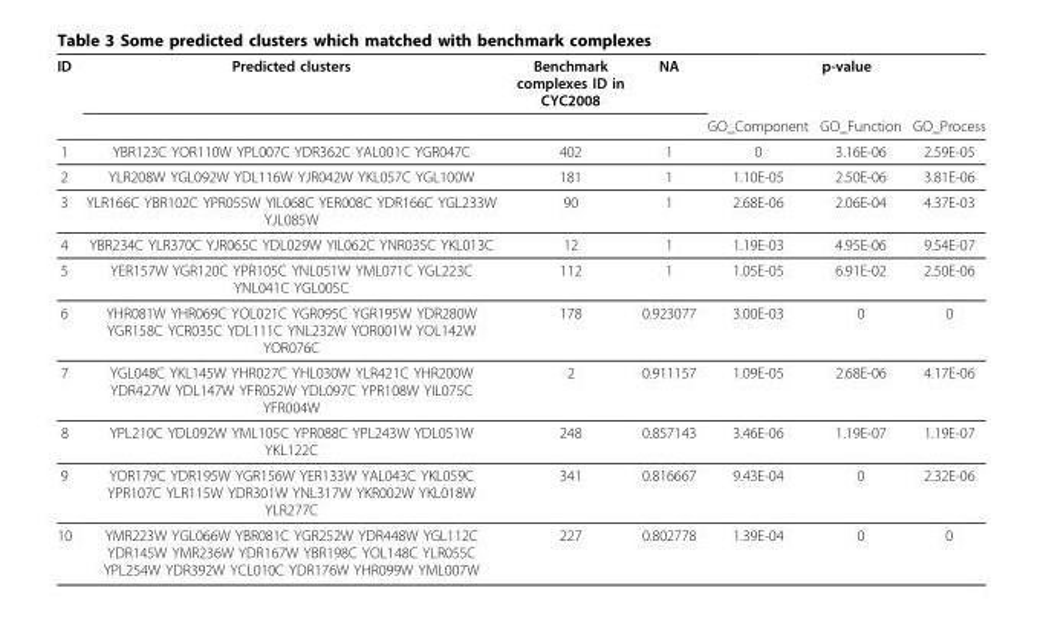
<table><thead><tr><td rowspan="2">ID</td><td rowspan="2">Predicted clusters</td><td rowspan="2">Benchmark complexes ID in CYC2008</td><td rowspan="2">NA</td><td colspan="3">p-value</td></tr><tr><td>GO_Component</td><td>GO_Function</td><td>GO_Process</td></tr></thead><tbody><tr><td>1</td><td>YBR123C YOR110W YPL007C YDR362C YAL001C YGR047C</td><td>402</td><td>1</td><td>0</td><td>3.16E-06</td><td>2.59E-05</td></tr><tr><td>2</td><td>YLR208W YGL092W YDL116W YJR042W YKL057C YGL100W</td><td>181</td><td>1</td><td>1.10E-05</td><td>2.50E-06</td><td>3.81E-06</td></tr><tr><td>3</td><td>YLR166C YBR102C YPR055W YIL068C YER008C YDR166C YGL233W YJL085W</td><td>90</td><td>1</td><td>2.68E-06</td><td>2.06E-04</td><td>4.37E-03</td></tr><tr><td>4</td><td>YBR234C YLR370C YJR065C YDL029W YIL062C YNR035C YKL013C</td><td>12</td><td>1</td><td>1.19E-03</td><td>4.95E-06</td><td>9.54E-07</td></tr><tr><td>5</td><td>YER157W YGR120C YPR105C YNL051W YML071C YGL223C YNL041C YGL005C</td><td>112</td><td>1</td><td>1.05E-05</td><td>6.91E-02</td><td>2.50E-06</td></tr><tr><td>6</td><td>YHR081W YHR069C YOL021C YGR095C YGR195W YDR280W YGR158C YCR035C YDL111C YNL232W YOR001W YOL142W YOR076C</td><td>178</td><td>0.923077</td><td>3.00E-03</td><td>0</td><td>0</td></tr><tr><td>7</td><td>YGL048C YKL145W YHR027C YHL030W YLR421C YHR200W YDR427W YDL147W YFR052W YDL097C YPR108W YIL075C YFR004W</td><td>2</td><td>0.911157</td><td>1.09E-05</td><td>2.68E-06</td><td>4.17E-06</td></tr><tr><td>8</td><td>YPL210C YDL092W YML105C YPR088C YPL243W YDL051W YKL122C</td><td>248</td><td>0.857143</td><td>3.46E-06</td><td>1.19E-07</td><td>1.19E-07</td></tr><tr><td>9</td><td>YOR179C YDR195W YGR156W YER133W YAL043C YKL059C YPR107C YLR115W YDR301W YNL317W YKR002W YKL018W YLR277C</td><td>341</td><td>0.816667</td><td>9.43E-04</td><td>0</td><td>2.32E-06</td></tr><tr><td>10</td><td>YMR223W YGL066W YBR081C YGR252W YDR448W YGL112C YDR145W YMR236W YDR167W YBR198C YOL148C YLR055C YPL254W YDR392W YCL010C YDR176W YHR099W YML007W</td><td>227</td><td>0.802778</td><td>1.39E-04</td><td>0</td><td>0</td></tr></tbody></table>